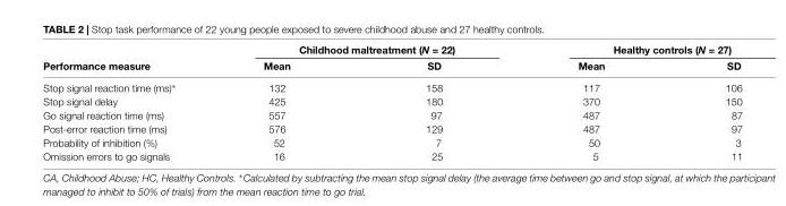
<table><thead><tr><td rowspan="2">Performance measure</td><td colspan="2">Childhood maltreatment (N = 22)</td><td colspan="2">Healthy controls (N = 27)</td></tr><tr><td>Mean</td><td>SD</td><td>Mean</td><td>SD</td></tr></thead><tbody><tr><td>Stop signal reaction time (ms)∗</td><td>132</td><td>158</td><td>117</td><td>106</td></tr><tr><td>Stop signal delay</td><td>425</td><td>180</td><td>370</td><td>150</td></tr><tr><td>Go signal reaction time (ms)</td><td>557</td><td>97</td><td>487</td><td>87</td></tr><tr><td>Post-error reaction time (ms)</td><td>576</td><td>129</td><td>487</td><td>97</td></tr><tr><td>Probability of inhibition (%)</td><td>52</td><td>7</td><td>50</td><td>3</td></tr><tr><td>Omission errors to go signals</td><td>16</td><td>25</td><td>5</td><td>11</td></tr></tbody></table>